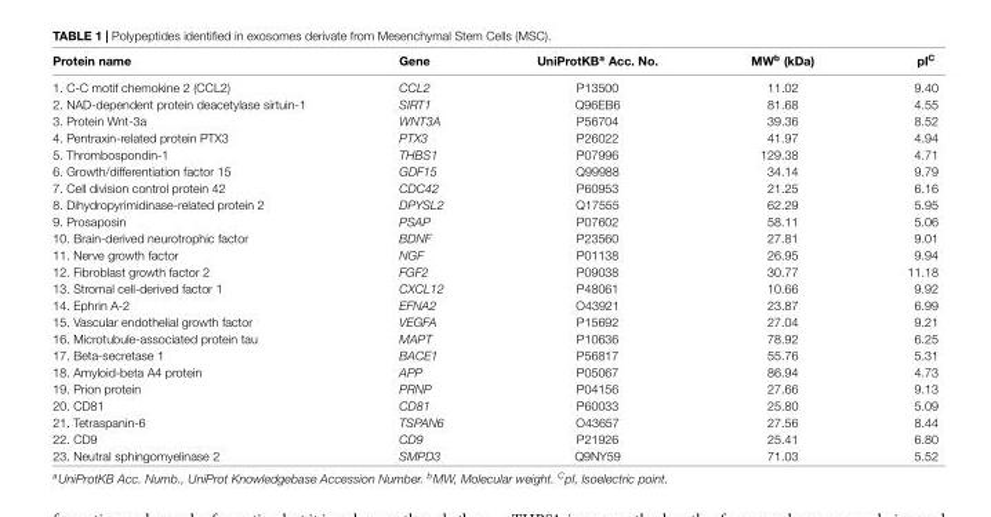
<table><thead><tr><td>Protein name</td><td>Gene</td><td>UniProtKB<sup>a</sup> Acc. No.</td><td>MW<sup>b</sup> (kDa)</td><td>pI<sup>C</sup></td></tr></thead><tbody><tr><td>1. C-C motif chemokine 2 (CCL2)</td><td>CCL2</td><td>P13500</td><td>11.02</td><td>9.40</td></tr><tr><td>2. NAD-dependent protein deacetylase sirtuin-1</td><td>SIRT1</td><td>Q96EB6</td><td>81.68</td><td>4.55</td></tr><tr><td>3. Protein Wnt-3a</td><td>WNT3A</td><td>P56704</td><td>39.36</td><td>8.52</td></tr><tr><td>4. Pentraxin-related protein PTX3</td><td>PTX3</td><td>P26022</td><td>41.97</td><td>4.94</td></tr><tr><td>5. Thrombospondin-1</td><td>THBS1</td><td>P07996</td><td>129.38</td><td>4.71</td></tr><tr><td>6. Growth/differentiation factor 15</td><td>GDF15</td><td>Q99988</td><td>34.14</td><td>9.79</td></tr><tr><td>7. Cell division control protein 42</td><td>CDC42</td><td>P60953</td><td>21.25</td><td>6.16</td></tr><tr><td>8. Dihydropyrimidinase-related protein 2</td><td>DPYSL2</td><td>Q17555</td><td>62.29</td><td>5.95</td></tr><tr><td>9. Prosaposin</td><td>PSAP</td><td>P07602</td><td>58.11</td><td>5.06</td></tr><tr><td>10. Brain-derived neurotrophic factor</td><td>BDNF</td><td>P23560</td><td>27.81</td><td>9.01</td></tr><tr><td>11. Nerve growth factor</td><td>NGF</td><td>P01138</td><td>26.95</td><td>9.94</td></tr><tr><td>12. Fibroblast growth factor 2</td><td>FGF2</td><td>P09038</td><td>30.77</td><td>11.18</td></tr><tr><td>13. Stromal cell-derived factor 1</td><td>CXCL12</td><td>P48061</td><td>10.66</td><td>9.92</td></tr><tr><td>14. Ephrin A-2</td><td>EFNA2</td><td>O43921</td><td>23.87</td><td>6.99</td></tr><tr><td>15. Vascular endothelial growth factor</td><td>VEGFA</td><td>P15692</td><td>27.04</td><td>9.21</td></tr><tr><td>16. Microtubule-associated protein tau</td><td>MAPT</td><td>P10636</td><td>78.92</td><td>6.25</td></tr><tr><td>17. Beta-secretase 1</td><td>BACE1</td><td>P56817</td><td>55.76</td><td>5.31</td></tr><tr><td>18. Amyloid-beta A4 protein</td><td>APP</td><td>P05067</td><td>86.94</td><td>4.73</td></tr><tr><td>19. Prion protein</td><td>PRNP</td><td>P04156</td><td>27.66</td><td>9.13</td></tr><tr><td>20. CD81</td><td>CD81</td><td>P60033</td><td>25.80</td><td>5.09</td></tr><tr><td>21. Tetraspanin-6</td><td>TSPAN6</td><td>O43657</td><td>27.56</td><td>8.44</td></tr><tr><td>22. CD9</td><td>CD9</td><td>P21926</td><td>25.41</td><td>6.80</td></tr><tr><td>23. Neutral sphingomyelinase 2</td><td>SMPD3</td><td>Q9NY59</td><td>71.03</td><td>5.52</td></tr></tbody></table>